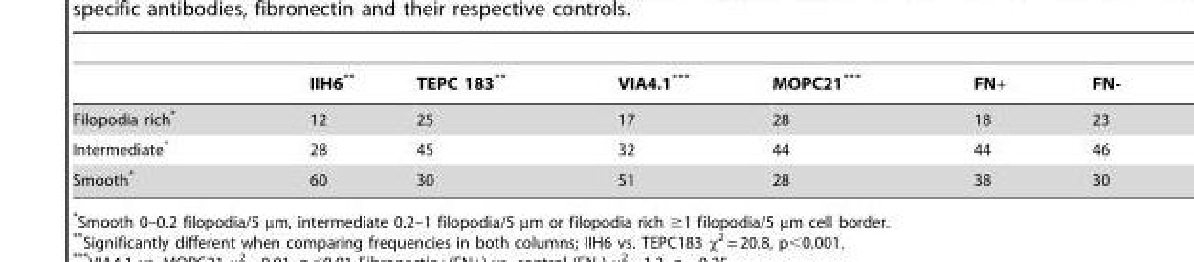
<table><thead><tr><td></td><td>IIH6**</td><td>TEPC 183**</td><td>VIA4.1***</td><td>MOPC21***</td><td>FN+</td><td>FN-</td></tr></thead><tbody><tr><td>Filopodia rich*</td><td>12</td><td>25</td><td>17</td><td>28</td><td>18</td><td>23</td></tr><tr><td>Intermediate*</td><td>28</td><td>45</td><td>32</td><td>44</td><td>44</td><td>46</td></tr><tr><td>Smooth*</td><td>60</td><td>30</td><td>51</td><td>28</td><td>38</td><td>30</td></tr></tbody></table>